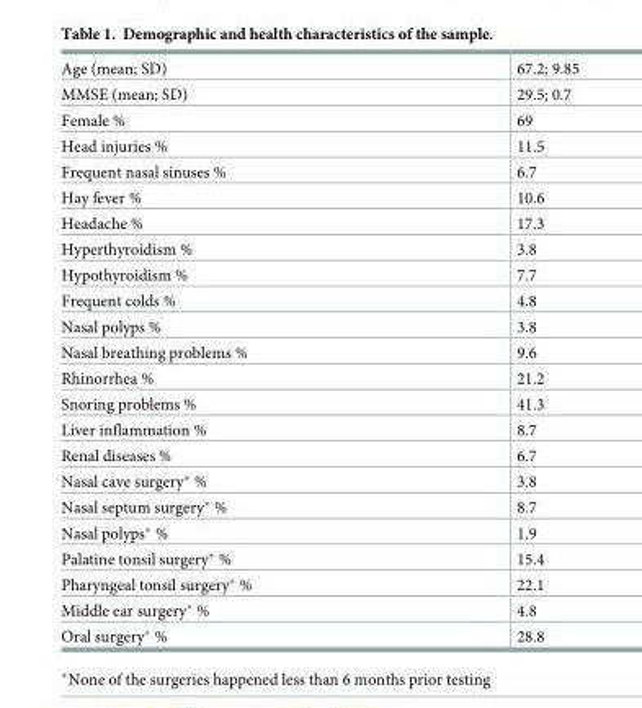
<table><tbody><tr><td>Age (mean; SD)</td><td>67.2; 9.85</td></tr><tr><td>MMSE (mean; SD)</td><td>29.5; 0.7</td></tr><tr><td>Female %</td><td>69</td></tr><tr><td>Head injuries %</td><td>11.5</td></tr><tr><td>Frequent nasal sinuses %</td><td>6.7</td></tr><tr><td>Hay fever %</td><td>10.6</td></tr><tr><td>Headache %</td><td>17.3</td></tr><tr><td>Hyperthyroidism %</td><td>3.8</td></tr><tr><td>Hypothyroidism %</td><td>7.7</td></tr><tr><td>Frequent colds %</td><td>4.8</td></tr><tr><td>Nasal polyps %</td><td>3.8</td></tr><tr><td>Nasal breathing problems %</td><td>9.6</td></tr><tr><td>Rhinorrhea %</td><td>21.2</td></tr><tr><td>Snoring problems %</td><td>41.3</td></tr><tr><td>Liver inflammation %</td><td>8.7</td></tr><tr><td>Renal diseases %</td><td>6.7</td></tr><tr><td>Nasal cave surgery* %</td><td>3.8</td></tr><tr><td>Nasal septum surgery* %</td><td>8.7</td></tr><tr><td>Nasal polyps* %</td><td>1.9</td></tr><tr><td>Palatine tonsil surgery* %</td><td>15.4</td></tr><tr><td>Pharyngeal tonsil surgery* %</td><td>22.1</td></tr><tr><td>Middle ear surgery* %</td><td>4.8</td></tr><tr><td>Oral surgery* %</td><td>28.8</td></tr></tbody></table>